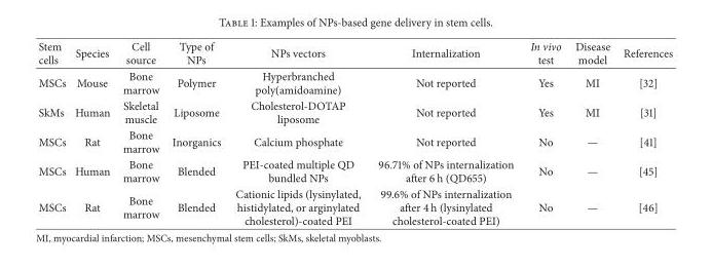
<table><thead><tr><td>Stem cells</td><td>Species</td><td>Cell source</td><td>Type of NPs</td><td>NPs vectors</td><td>Internalization</td><td>In vivo test</td><td>Disease model</td><td>References</td></tr></thead><tbody><tr><td>MSCs</td><td>Mouse</td><td>Bone marrow</td><td>Polymer</td><td>Hyperbranched poly(amidoamine)</td><td>Not reported</td><td>Yes</td><td>MI</td><td>[32]</td></tr><tr><td>SkMs</td><td>Human</td><td>Skeletal muscle</td><td>Liposome</td><td>Cholesterol-DOTAP liposome</td><td>Not reported</td><td>Yes</td><td>MI</td><td>[31]</td></tr><tr><td>MSCs</td><td>Rat</td><td>Bone marrow</td><td>Inorganics</td><td>Calcium phosphate</td><td>Not reported</td><td>No</td><td>—</td><td>[41]</td></tr><tr><td>MSCs</td><td>Human</td><td>Bone marrow</td><td>Blended</td><td>PEI-coated multiple QD bundled NPs</td><td>96.71% of NPs internalization after 6 h (QD655)</td><td>No</td><td>—</td><td>[45]</td></tr><tr><td>MSCs</td><td>Rat</td><td>Bone marrow</td><td>Blended</td><td>Cationic lipids (lysinylated, histidylated, or arginylated cholesterol)-coated PEI</td><td>99.6% of NPs internalization after 4 h (lysinylated cholesterol-coated PEI)</td><td>No</td><td>—</td><td>[46]</td></tr></tbody></table>